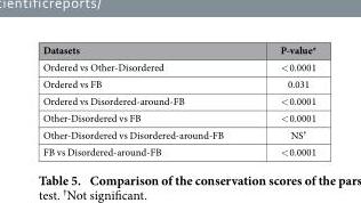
<table><thead><tr><td>Datasets</td><td>P-value*</td></tr></thead><tbody><tr><td>Ordered vs Other-Disordered</td><td>&lt; 0.0001</td></tr><tr><td>Ordered vs FB</td><td>0.031</td></tr><tr><td>Ordered vs Disordered-around-FB</td><td>&lt; 0.0001</td></tr><tr><td>Other-Disordered vs FB</td><td>&lt; 0.0001</td></tr><tr><td>Other-Disordered vs Disordered-around-FB</td><td>NS†</td></tr><tr><td>FB vs Disordered-around-FB</td><td>&lt; 0.0001</td></tr></tbody></table>